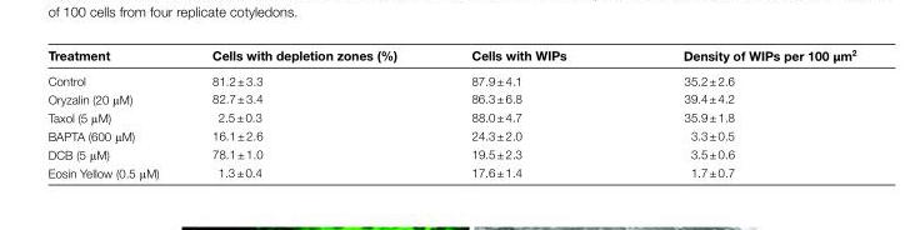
<table><thead><tr><td>Treatment</td><td>Cells with depletion zones (%)</td><td>Cells with WIPs</td><td>Density of WIPs per 100 μm<sup>2</sup></td></tr></thead><tbody><tr><td>Control</td><td>81.2 ± 3.3</td><td>87.9 ± 4.1</td><td>35.2 ± 2.6</td></tr><tr><td>Oryzalin (20 μM)</td><td>82.7 ± 3.4</td><td>86.3 ± 6.8</td><td>39.4 ± 4.2</td></tr><tr><td>Taxol (5 μM)</td><td>2.5 ± 0.3</td><td>88.0 ± 4.7</td><td>35.9 ± 1.8</td></tr><tr><td>BAPTA (600 μM)</td><td>16.1 ± 2.6</td><td>24.3 ± 2.0</td><td>3.3 ± 0.5</td></tr><tr><td>DCB (5 μM)</td><td>78.1 ± 1.0</td><td>19.5 ± 2.3</td><td>3.5 ± 0.6</td></tr><tr><td>Eosin Yellow (0.5 μM)</td><td>1.3 ± 0.4</td><td>17.6 ± 1.4</td><td>1.7 ± 0.7</td></tr></tbody></table>